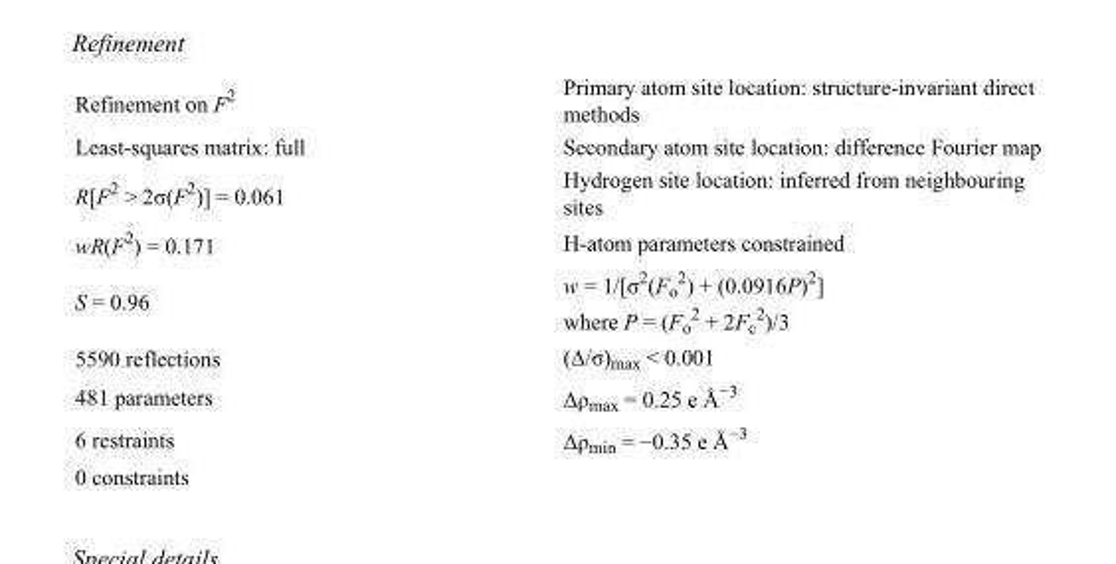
<table><tbody><tr><td>Refinement on F<sup>2</sup></td><td>Primary atom site location: structure-invariant direct methods</td></tr><tr><td>Least-squares matrix: full</td><td>Secondary atom site location: difference Fourier map</td></tr><tr><td>R[F<sup>2</sup> &gt; 2σ(F<sup>2</sup>)] = 0.061</td><td>Hydrogen site location: inferred from neighbouring sites</td></tr><tr><td>wR(F<sup>2</sup>) = 0.171</td><td>H-atom parameters constrained</td></tr><tr><td>S = 0.96</td><td>w = 1/[σ<sup>2</sup>(F<sub>o</sub> <sup>2</sup>) + (0.0916P)<sup>2</sup>] where P = (F<sub>o</sub> <sup>2</sup> + 2F<sub>c</sub> <sup>2</sup>)/3</td></tr><tr><td>5590 reflections</td><td>(Δ/σ)<sub>max</sub> &lt; 0.001</td></tr><tr><td>481 parameters</td><td>Δρ<sub>max</sub> = 0.25 e Å<sup>−3</sup></td></tr><tr><td>6 restraints</td><td>Δρ<sub>min</sub> = −0.35 e Å<sup>−3</sup></td></tr><tr><td>0 constraints</td><td></td></tr></tbody></table>